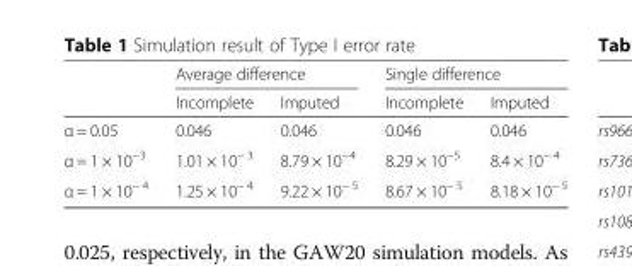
<table><thead><tr><td rowspan="2"></td><td colspan="2">Average difference</td><td colspan="2">Single difference</td></tr><tr><td>Incomplete</td><td>Imputed</td><td>Incomplete</td><td>Imputed</td></tr></thead><tbody><tr><td>α = 0.05</td><td>0.046</td><td>0.046</td><td>0.046</td><td>0.046</td></tr><tr><td>α = 1 × 10<sup>−3</sup></td><td>1.01 × 10<sup>− 3</sup></td><td>8.79 × 10<sup>−4</sup></td><td>8.29 × 10<sup>−5</sup></td><td>8.4 × 10<sup>− 4</sup></td></tr><tr><td>α = 1 × 10<sup>− 4</sup></td><td>1.25 × 10<sup>− 4</sup></td><td>9.22 × 10<sup>− 5</sup></td><td>8.67 × 10<sup>− 5</sup></td><td>8.18 × 10<sup>− 5</sup></td></tr></tbody></table>